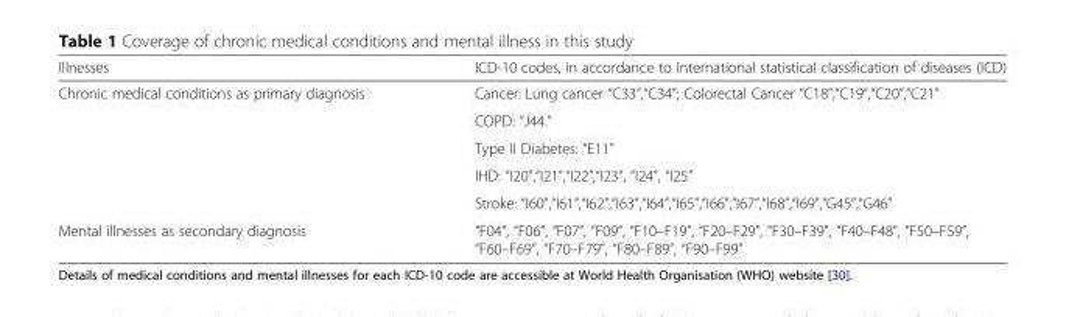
<table><thead><tr><td>Illnesses</td><td>ICD-10 codes, in accordance to International statistical classification of diseases (ICD)</td></tr></thead><tbody><tr><td rowspan="5">Chronic medical conditions as primary diagnosis</td><td>Cancer: Lung cancer “C33”,“C34”; Colorectal Cancer “C18”,“C19”,“C20”,“C21”</td></tr><tr><td>COPD: “J44.”</td></tr><tr><td>Type II Diabetes: “E11”</td></tr><tr><td>IHD: “I20”,“I21”,“I22”,“I23”, “I24”, “I25”</td></tr><tr><td>Stroke: “I60”,“I61”,“I62”,“I63”,“I64”,“I65”,“I66”,“I67”,“I68”,“I69”,“G45”,“G46”</td></tr><tr><td>Mental illnesses as secondary diagnosis</td><td>“F04”, “F06”, “F07”, “F09”, “F10–F19”, “F20–F29”, “F30–F39”, “F40–F48”, “F50–F59”, “F60–F69”, “F70–F79”, “F80–F89”, “F90–F99”</td></tr></tbody></table>